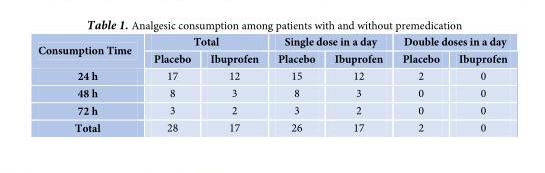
<table><thead><tr><td rowspan="2">Consumption Time</td><td colspan="2">Total</td><td colspan="2">Single dose in a day</td><td colspan="2">Double doses in a day</td></tr><tr><td>Placebo</td><td>Ibuprofen</td><td>Placebo</td><td>Ibuprofen</td><td>Placebo</td><td>Ibuprofen</td></tr></thead><tbody><tr><td>24 h</td><td>17</td><td>12</td><td>15</td><td>12</td><td>2</td><td>0</td></tr><tr><td>48 h</td><td>8</td><td>3</td><td>8</td><td>3</td><td>0</td><td>0</td></tr><tr><td>72 h</td><td>3</td><td>2</td><td>3</td><td>2</td><td>0</td><td>0</td></tr><tr><td>Total</td><td>28</td><td>17</td><td>26</td><td>17</td><td>2</td><td>0</td></tr></tbody></table>